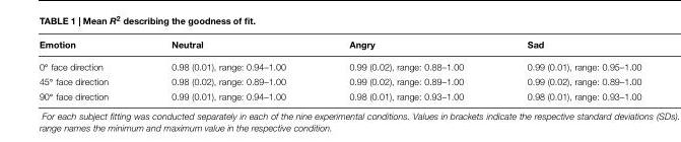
<table><thead><tr><td>Emotion</td><td>Neutral</td><td>Angry</td><td>Sad</td></tr></thead><tbody><tr><td>0◦ face direction</td><td>0.98 (0.01), range: 0.94–1.00</td><td>0.99 (0.02), range: 0.88–1.00</td><td>0.99 (0.01), range: 0.95–1.00</td></tr><tr><td>45◦ face direction</td><td>0.98 (0.02), range: 0.89–1.00</td><td>0.99 (0.02), range: 0.89–1.00</td><td>0.99 (0.02), range: 0.89–1.00</td></tr><tr><td>90◦ face direction</td><td>0.99 (0.01), range: 0.94–1.00</td><td>0.98 (0.01), range: 0.93–1.00</td><td>0.98 (0.01), range: 0.93–1.00</td></tr></tbody></table>